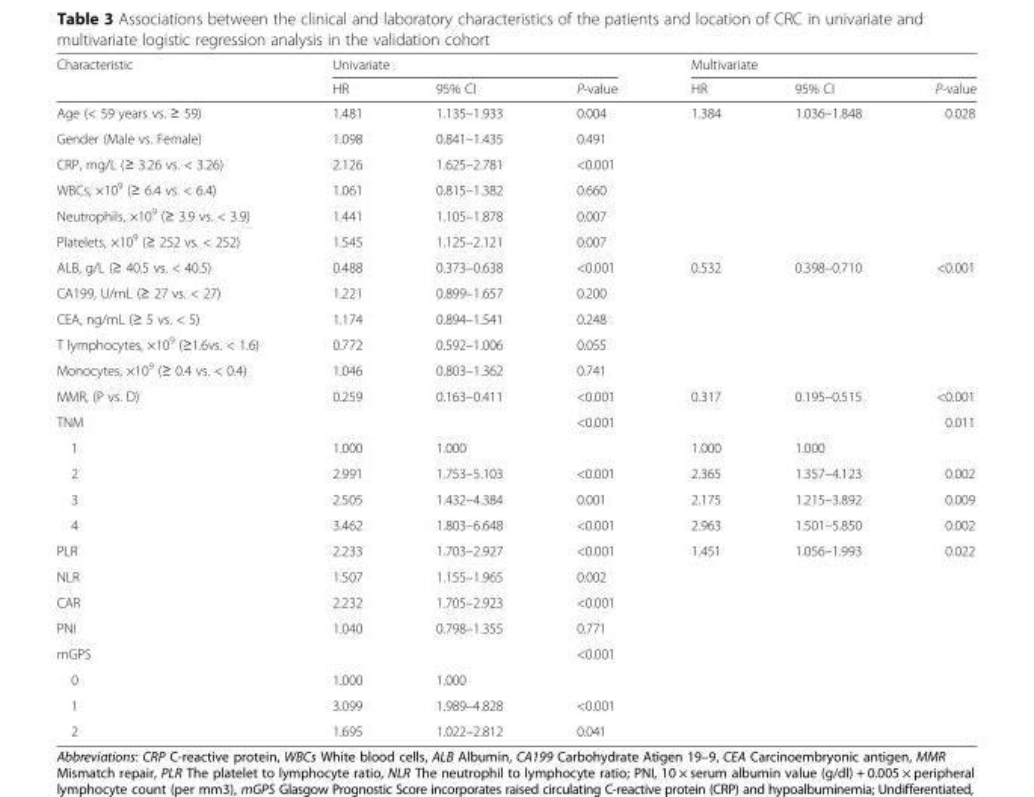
<table><thead><tr><td rowspan="2">Characteristic</td><td colspan="3">Univariate</td><td colspan="3">Multivariate</td></tr><tr><td>HR</td><td>95% CI</td><td>P-value</td><td>HR</td><td>95% CI</td><td>P-value</td></tr></thead><tbody><tr><td>Age (&lt; 59 years vs. ≥ 59)</td><td>1.481</td><td>1.135–1.933</td><td>0.004</td><td>1.384</td><td>1.036–1.848</td><td>0.028</td></tr><tr><td>Gender (Male vs. Female)</td><td>1.098</td><td>0.841–1.435</td><td>0.491</td><td></td><td></td><td></td></tr><tr><td>CRP, mg/L (≥ 3.26 vs. &lt; 3.26)</td><td>2.126</td><td>1.625–2.781</td><td>&lt;0.001</td><td></td><td></td><td></td></tr><tr><td>WBCs, ×10<sup>9</sup> (≥ 6.4 vs. &lt; 6.4)</td><td>1.061</td><td>0.815–1.382</td><td>0.660</td><td></td><td></td><td></td></tr><tr><td>Neutrophils, ×10<sup>9</sup> (≥ 3.9 vs. &lt; 3.9)</td><td>1.441</td><td>1.105–1.878</td><td>0.007</td><td></td><td></td><td></td></tr><tr><td>Platelets, ×10<sup>9</sup> (≥ 252 vs. &lt; 252)</td><td>1.545</td><td>1.125–2.121</td><td>0.007</td><td></td><td></td><td></td></tr><tr><td>ALB, g/L (≥ 40.5 vs. &lt; 40.5)</td><td>0.488</td><td>0.373–0.638</td><td>&lt;0.001</td><td>0.532</td><td>0.398–0.710</td><td>&lt;0.001</td></tr><tr><td>CA199, U/mL (≥ 27 vs. &lt; 27)</td><td>1.221</td><td>0.899–1.657</td><td>0.200</td><td></td><td></td><td></td></tr><tr><td>CEA, ng/mL (≥ 5 vs. &lt; 5)</td><td>1.174</td><td>0.894–1.541</td><td>0.248</td><td></td><td></td><td></td></tr><tr><td>T lymphocytes, ×10<sup>9</sup> (≥1.6vs. &lt; 1.6)</td><td>0.772</td><td>0.592–1.006</td><td>0.055</td><td></td><td></td><td></td></tr><tr><td>Monocytes, ×10<sup>9</sup> (≥ 0.4 vs. &lt; 0.4)</td><td>1.046</td><td>0.803–1.362</td><td>0.741</td><td></td><td></td><td></td></tr><tr><td>MMR, (P vs. D)</td><td>0.259</td><td>0.163–0.411</td><td>&lt;0.001</td><td>0.317</td><td>0.195–0.515</td><td>&lt;0.001</td></tr><tr><td>TNM</td><td></td><td></td><td>&lt;0.001</td><td></td><td></td><td>0.011</td></tr><tr><td>1</td><td>1.000</td><td>1.000</td><td></td><td>1.000</td><td>1.000</td><td></td></tr><tr><td>2</td><td>2.991</td><td>1.753–5.103</td><td>&lt;0.001</td><td>2.365</td><td>1.357–4.123</td><td>0.002</td></tr><tr><td>3</td><td>2.505</td><td>1.432–4.384</td><td>0.001</td><td>2.175</td><td>1.215–3.892</td><td>0.009</td></tr><tr><td>4</td><td>3.462</td><td>1.803–6.648</td><td>&lt;0.001</td><td>2.963</td><td>1.501–5.850</td><td>0.002</td></tr><tr><td>PLR</td><td>2.233</td><td>1.703–2.927</td><td>&lt;0.001</td><td>1.451</td><td>1.056–1.993</td><td>0.022</td></tr><tr><td>NLR</td><td>1.507</td><td>1.155–1.965</td><td>0.002</td><td></td><td></td><td></td></tr><tr><td>CAR</td><td>2.232</td><td>1.705–2.923</td><td>&lt;0.001</td><td></td><td></td><td></td></tr><tr><td>PNI</td><td>1.040</td><td>0.798–1.355</td><td>0.771</td><td></td><td></td><td></td></tr><tr><td>mGPS</td><td></td><td></td><td>&lt;0.001</td><td></td><td></td><td></td></tr><tr><td>0</td><td>1.000</td><td>1.000</td><td></td><td></td><td></td><td></td></tr><tr><td>1</td><td>3.099</td><td>1.989–4.828</td><td>&lt;0.001</td><td></td><td></td><td></td></tr><tr><td>2</td><td>1.695</td><td>1.022–2.812</td><td>0.041</td><td></td><td></td><td></td></tr></tbody></table>